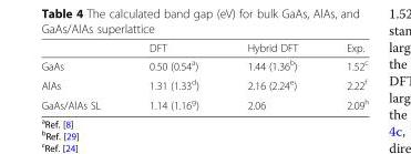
<table><thead><tr><td></td><td>DFT</td><td>Hybrid DFT</td><td>Exp.</td></tr></thead><tbody><tr><td>GaAs</td><td>0.50 (0.54<sup>a</sup>)</td><td>1.44 (1.36<sup>b</sup>)</td><td>1.52<sup>c</sup></td></tr><tr><td>AlAs</td><td>1.31 (1.33<sup>d</sup>)</td><td>2.16 (2.24<sup>e</sup>)</td><td>2.22<sup>f</sup></td></tr><tr><td>GaAs/AlAs SL</td><td>1.14 (1.16<sup>g</sup>)</td><td>2.06</td><td>2.09<sup>h</sup></td></tr></tbody></table>